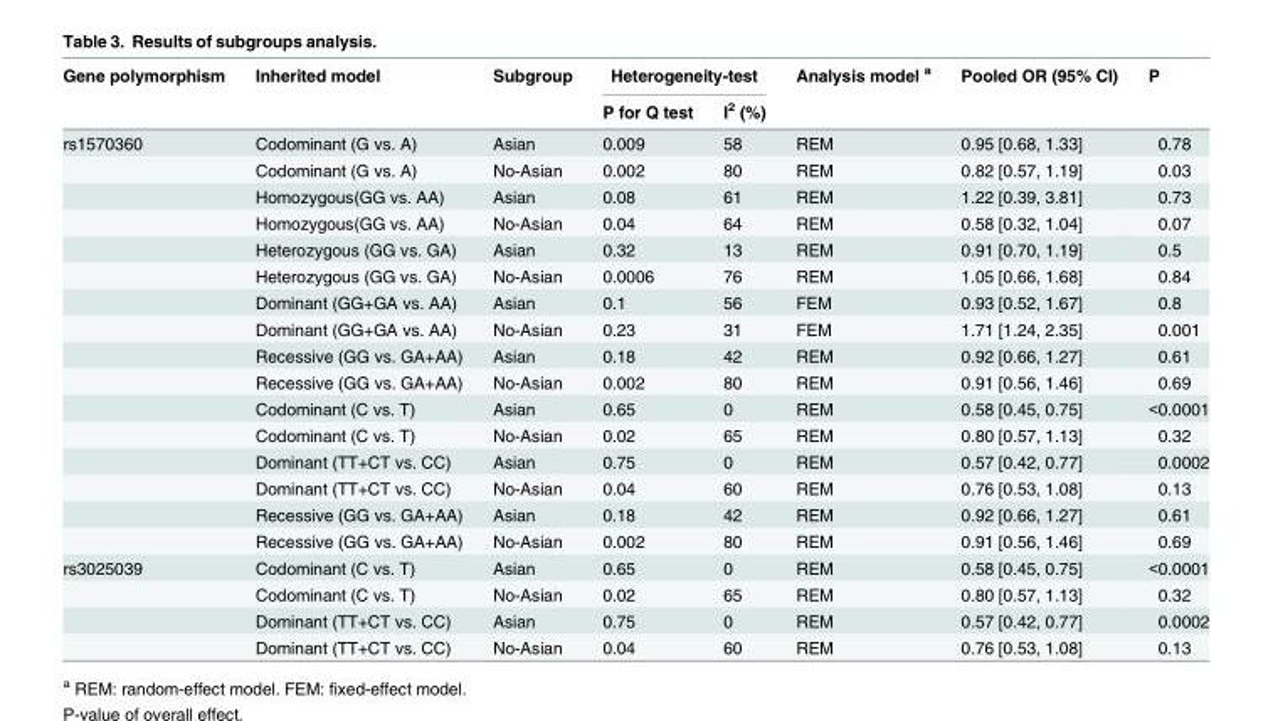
<table><thead><tr><td rowspan="2">Gene polymorphism</td><td rowspan="2">Inherited model</td><td rowspan="2">Subgroup</td><td colspan="2">Heterogeneity-test</td><td rowspan="2">Analysis model <sup>a</sup></td><td rowspan="2">Pooled OR (95% CI)</td><td rowspan="2">P</td></tr><tr><td>P for Q test</td><td>I<sup>2</sup> (%)</td></tr></thead><tbody><tr><td rowspan="16">rs1570360</td><td>Codominant (G vs. A)</td><td>Asian</td><td>0.009</td><td>58</td><td>REM</td><td>0.95 [0.68, 1.33]</td><td>0.78</td></tr><tr><td>Codominant (G vs. A)</td><td>No-Asian</td><td>0.002</td><td>80</td><td>REM</td><td>0.82 [0.57, 1.19]</td><td>0.03</td></tr><tr><td>Homozygous(GG vs. AA)</td><td>Asian</td><td>0.08</td><td>61</td><td>REM</td><td>1.22 [0.39, 3.81]</td><td>0.73</td></tr><tr><td>Homozygous(GG vs. AA)</td><td>No-Asian</td><td>0.04</td><td>64</td><td>REM</td><td>0.58 [0.32, 1.04]</td><td>0.07</td></tr><tr><td>Heterozygous (GG vs. GA)</td><td>Asian</td><td>0.32</td><td>13</td><td>REM</td><td>0.91 [0.70, 1.19]</td><td>0.5</td></tr><tr><td>Heterozygous (GG vs. GA)</td><td>No-Asian</td><td>0.0006</td><td>76</td><td>REM</td><td>1.05 [0.66, 1.68]</td><td>0.84</td></tr><tr><td>Dominant (GG+GA vs. AA)</td><td>Asian</td><td>0.1</td><td>56</td><td>FEM</td><td>0.93 [0.52, 1.67]</td><td>0.8</td></tr><tr><td>Dominant (GG+GA vs. AA)</td><td>No-Asian</td><td>0.23</td><td>31</td><td>FEM</td><td>1.71 [1.24, 2.35]</td><td>0.001</td></tr><tr><td>Recessive (GG vs. GA+AA)</td><td>Asian</td><td>0.18</td><td>42</td><td>REM</td><td>0.92 [0.66, 1.27]</td><td>0.61</td></tr><tr><td>Recessive (GG vs. GA+AA)</td><td>No-Asian</td><td>0.002</td><td>80</td><td>REM</td><td>0.91 [0.56, 1.46]</td><td>0.69</td></tr><tr><td>Codominant (C vs. T)</td><td>Asian</td><td>0.65</td><td>0</td><td>REM</td><td>0.58 [0.45, 0.75]</td><td>&lt;0.0001</td></tr><tr><td>Codominant (C vs. T)</td><td>No-Asian</td><td>0.02</td><td>65</td><td>REM</td><td>0.80 [0.57, 1.13]</td><td>0.32</td></tr><tr><td>Dominant (TT+CT vs. CC)</td><td>Asian</td><td>0.75</td><td>0</td><td>REM</td><td>0.57 [0.42, 0.77]</td><td>0.0002</td></tr><tr><td>Dominant (TT+CT vs. CC)</td><td>No-Asian</td><td>0.04</td><td>60</td><td>REM</td><td>0.76 [0.53, 1.08]</td><td>0.13</td></tr><tr><td>Recessive (GG vs. GA+AA)</td><td>Asian</td><td>0.18</td><td>42</td><td>REM</td><td>0.92 [0.66, 1.27]</td><td>0.61</td></tr><tr><td>Recessive (GG vs. GA+AA)</td><td>No-Asian</td><td>0.002</td><td>80</td><td>REM</td><td>0.91 [0.56, 1.46]</td><td>0.69</td></tr><tr><td rowspan="4">rs3025039</td><td>Codominant (C vs. T)</td><td>Asian</td><td>0.65</td><td>0</td><td>REM</td><td>0.58 [0.45, 0.75]</td><td>&lt;0.0001</td></tr><tr><td>Codominant (C vs. T)</td><td>No-Asian</td><td>0.02</td><td>65</td><td>REM</td><td>0.80 [0.57, 1.13]</td><td>0.32</td></tr><tr><td>Dominant (TT+CT vs. CC)</td><td>Asian</td><td>0.75</td><td>0</td><td>REM</td><td>0.57 [0.42, 0.77]</td><td>0.0002</td></tr><tr><td>Dominant (TT+CT vs. CC)</td><td>No-Asian</td><td>0.04</td><td>60</td><td>REM</td><td>0.76 [0.53, 1.08]</td><td>0.13</td></tr></tbody></table>